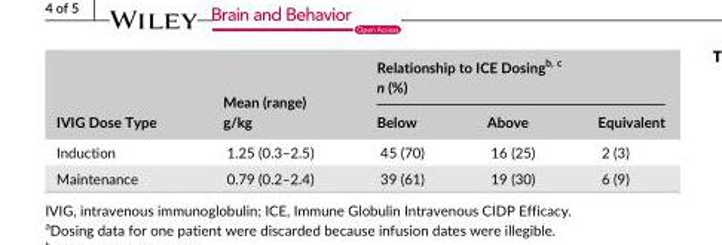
<table><thead><tr><td rowspan="2">IVIG Dose Type</td><td rowspan="2">Mean (range) g/kg</td><td colspan="3">Relationship to ICE Dosing<sup>b</sup>, <sup>c</sup> n (%)</td></tr><tr><td>Below</td><td>Above</td><td>Equivalent</td></tr></thead><tbody><tr><td>Induction</td><td>1.25 (0.3–2.5)</td><td>45 (70)</td><td>16 (25)</td><td>2 (3)</td></tr><tr><td>Maintenance</td><td>0.79 (0.2–2.4)</td><td>39 (61)</td><td>19 (30)</td><td>6 (9)</td></tr></tbody></table>